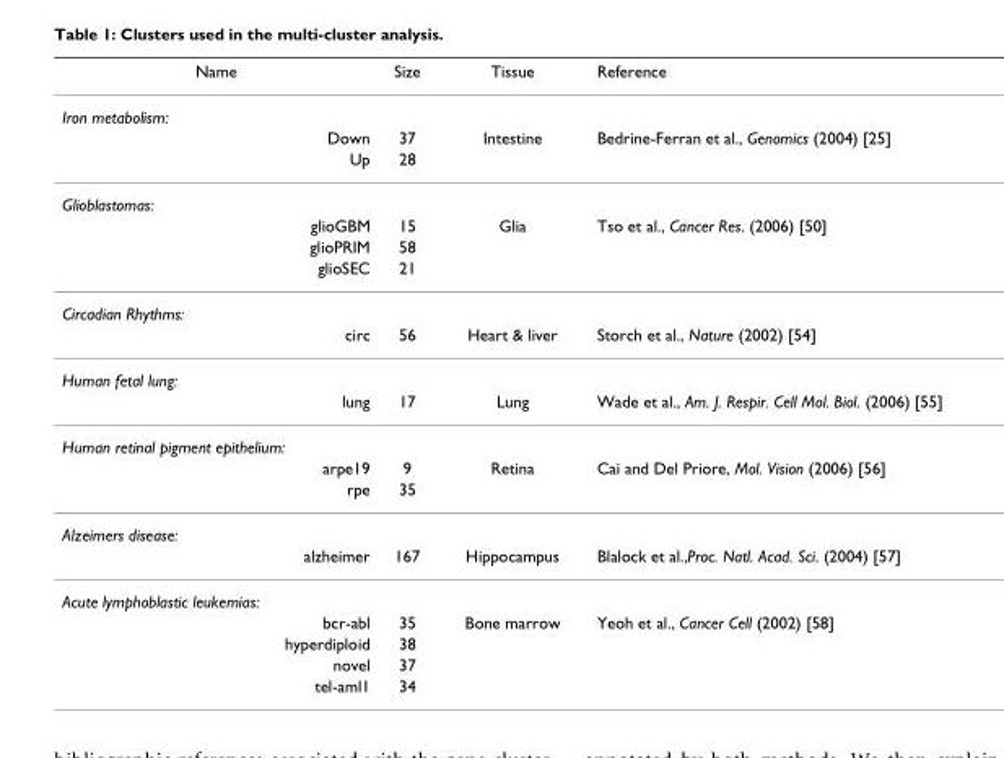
<table><thead><tr><td>Name</td><td>Size</td><td>Tissue</td><td>Reference</td></tr></thead><tbody><tr><td colspan="4">Iron metabolism:</td></tr><tr><td>Down</td><td>37</td><td>Intestine</td><td>Bedrine-Ferran et al., Genomics (2004) [25]</td></tr><tr><td>Up</td><td>28</td><td></td><td></td></tr><tr><td colspan="4">Glioblastomas:</td></tr><tr><td>glioGBM</td><td>15</td><td>Glia</td><td>Tso et al., Cancer Res. (2006) [50]</td></tr><tr><td>glioPRIM</td><td>58</td><td></td><td></td></tr><tr><td>glioSEC</td><td>21</td><td></td><td></td></tr><tr><td colspan="4">Circadian Rhythms:</td></tr><tr><td>circ</td><td>56</td><td>Heart &amp; liver</td><td>Storch et al., Nature (2002) [54]</td></tr><tr><td colspan="4">Human fetal lung:</td></tr><tr><td>lung</td><td>17</td><td>Lung</td><td>Wade et al., Am. J. Respir. Cell Mol. Biol. (2006) [55]</td></tr><tr><td colspan="4">Human retinal pigment epithelium:</td></tr><tr><td>arpe19</td><td>9</td><td>Retina</td><td>Cai and Del Priore, Mol. Vision (2006) [56]</td></tr><tr><td>rpe</td><td>35</td><td></td><td></td></tr><tr><td colspan="4">Alzeimers disease:</td></tr><tr><td>alzheimer</td><td>167</td><td>Hippocampus</td><td>Blalock et al.,Proc. Natl. Acad. Sci. (2004) [57]</td></tr><tr><td colspan="4">Acute lymphoblastic leukemias:</td></tr><tr><td>bcr-abl</td><td>35</td><td>Bone marrow</td><td>Yeoh et al., Cancer Cell (2002) [58]</td></tr><tr><td>hyperdiploid</td><td>38</td><td></td><td></td></tr><tr><td>novel</td><td>37</td><td></td><td></td></tr><tr><td>tel-aml1</td><td>34</td><td></td><td></td></tr></tbody></table>